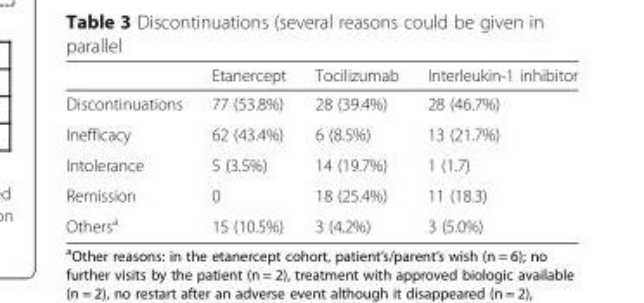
<table><thead><tr><td></td><td>Etanercept</td><td>Tocilizumab</td><td>Interleukin-1 inhibitor</td></tr></thead><tbody><tr><td>Discontinuations</td><td>77 (53.8%)</td><td>28 (39.4%)</td><td>28 (46.7%)</td></tr><tr><td>Inefficacy</td><td>62 (43.4%)</td><td>6 (8.5%)</td><td>13 (21.7%)</td></tr><tr><td>Intolerance</td><td>5 (3.5%)</td><td>14 (19.7%)</td><td>1 (1.7)</td></tr><tr><td>Remission</td><td>0</td><td>18 (25.4%)</td><td>11 (18.3)</td></tr><tr><td>Others<sup>a</sup></td><td>15 (10.5%)</td><td>3 (4.2%)</td><td>3 (5.0%)</td></tr></tbody></table>